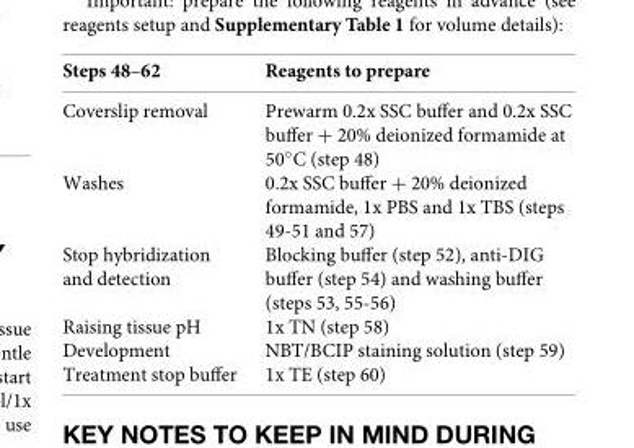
<table><thead><tr><td>Steps 48–62</td><td>Reagents to prepare</td></tr></thead><tbody><tr><td>Coverslip removal</td><td>Prewarm 0.2x SSC buffer and 0.2x SSC buffer + 20% deionized formamide at 50◦C (step 48)</td></tr><tr><td>Washes</td><td>0.2x SSC buffer + 20% deionized formamide, 1x PBS and 1x TBS (steps 49-51 and 57)</td></tr><tr><td>Stop hybridization and detection</td><td>Blocking buffer (step 52), anti-DIG buffer (step 54) and washing buffer (steps 53, 55-56)</td></tr><tr><td>Raising tissue pH</td><td>1x TN (step 58)</td></tr><tr><td>Development</td><td>NBT/BCIP staining solution (step 59)</td></tr><tr><td>Treatment stop buffer</td><td>1x TE (step 60)</td></tr></tbody></table>